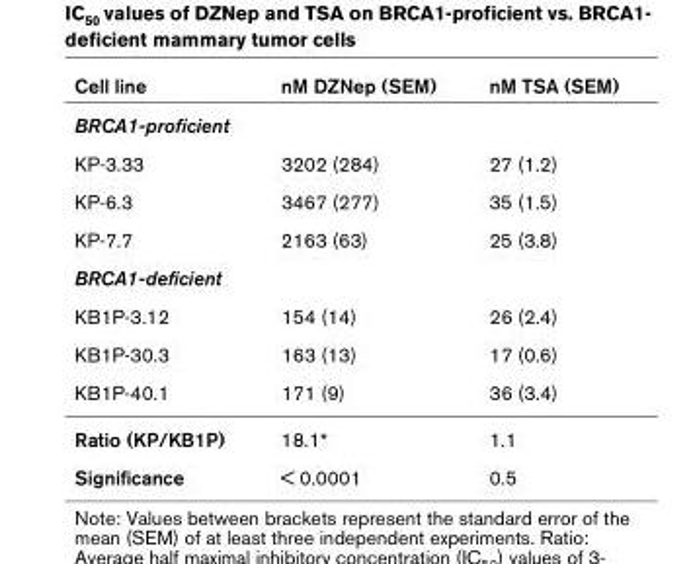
<table><thead><tr><td>Cell line</td><td>nM DZNep (SEM)</td><td>nM TSA (SEM)</td></tr></thead><tbody><tr><td colspan="3">BRCA1-proficient</td></tr><tr><td>KP-3.33</td><td>3202 (284)</td><td>27 (1.2)</td></tr><tr><td>KP-6.3</td><td>3467 (277)</td><td>35 (1.5)</td></tr><tr><td>KP-7.7</td><td>2163 (63)</td><td>25 (3.8)</td></tr><tr><td colspan="3">BRCA1-deficient</td></tr><tr><td>KB1P-3.12</td><td>154 (14)</td><td>26 (2.4)</td></tr><tr><td>KB1P-30.3</td><td>163 (13)</td><td>17 (0.6)</td></tr><tr><td>KB1P-40.1</td><td>171 (9)</td><td>36 (3.4)</td></tr><tr><td>Ratio (KP/KB1P)</td><td>18.1*</td><td>1.1</td></tr><tr><td>Significance</td><td>&lt; 0.0001</td><td>0.5</td></tr></tbody></table>